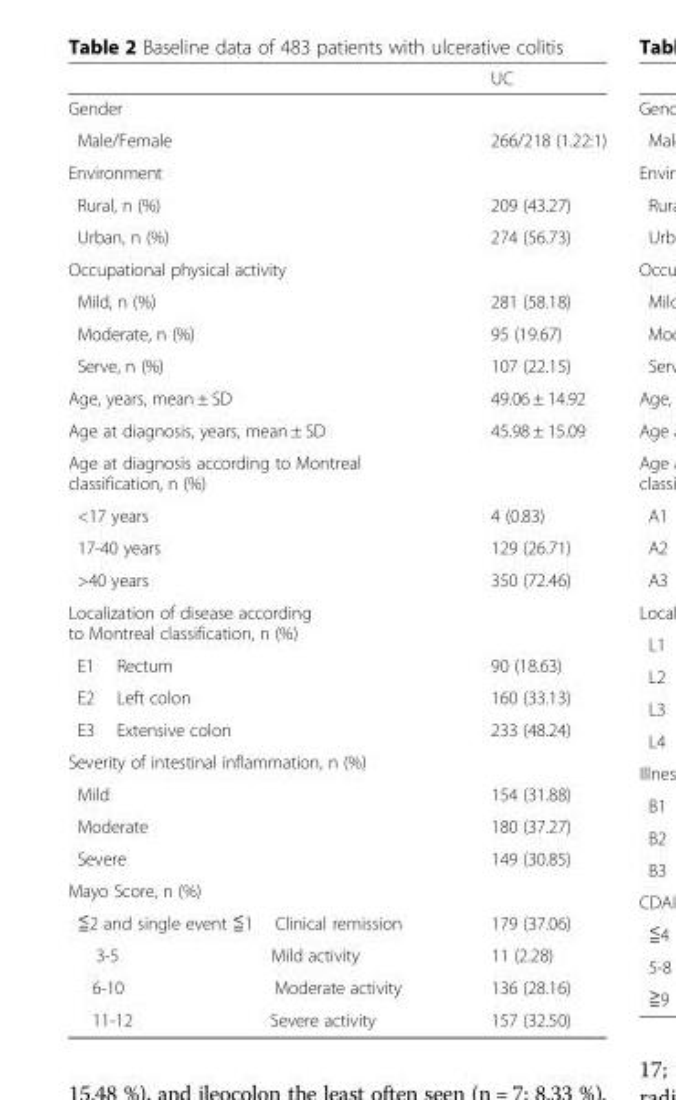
<table><thead><tr><td></td><td>UC</td></tr></thead><tbody><tr><td colspan="2">Gender</td></tr><tr><td>Male/Female</td><td>266/218 (1.22:1)</td></tr><tr><td colspan="2">Environment</td></tr><tr><td>Rural, n (%)</td><td>209 (43.27)</td></tr><tr><td>Urban, n (%)</td><td>274 (56.73)</td></tr><tr><td colspan="2">Occupational physical activity</td></tr><tr><td>Mild, n (%)</td><td>281 (58.18)</td></tr><tr><td>Moderate, n (%)</td><td>95 (19.67)</td></tr><tr><td>Serve, n (%)</td><td>107 (22.15)</td></tr><tr><td>Age, years, mean ± SD</td><td>49.06 ± 14.92</td></tr><tr><td>Age at diagnosis, years, mean ± SD</td><td>45.98 ± 15.09</td></tr><tr><td colspan="2">Age at diagnosis according to Montreal classification, n (%)</td></tr><tr><td>&lt;17 years</td><td>4 (0.83)</td></tr><tr><td>17-40 years</td><td>129 (26.71)</td></tr><tr><td>&gt;40 years</td><td>350 (72.46)</td></tr><tr><td colspan="2">Localization of disease according to Montreal classification, n (%)</td></tr><tr><td>E1 Rectum</td><td>90 (18.63)</td></tr><tr><td>E2 Left colon</td><td>160 (33.13)</td></tr><tr><td>E3 Extensive colon</td><td>233 (48.24)</td></tr><tr><td colspan="2">Severity of intestinal inflammation, n (%)</td></tr><tr><td>Mild</td><td>154 (31.88)</td></tr><tr><td>Moderate</td><td>180 (37.27)</td></tr><tr><td>Severe</td><td>149 (30.85)</td></tr><tr><td colspan="2">Mayo Score, n (%)</td></tr><tr><td>≦2 and single event ≦1 Clinical remission</td><td>179 (37.06)</td></tr><tr><td>3-5 Mild activity</td><td>11 (2.28)</td></tr><tr><td>6-10 Moderate activity</td><td>136 (28.16)</td></tr><tr><td>11-12 Severe activity</td><td>157 (32.50)</td></tr></tbody></table>